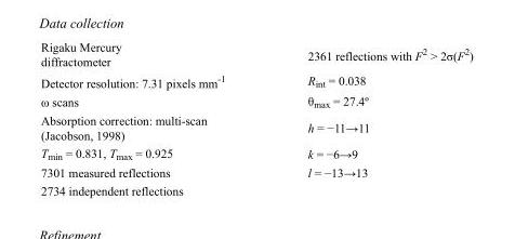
<table><tbody><tr><td>Rigaku Mercury diffractometer</td><td>2361 reflections with F<sup>2</sup> &gt; 2σ(F<sup>2</sup>)</td></tr><tr><td>Detector resolution: 7.31 pixels mm<sup>-1</sup></td><td>R<sub>int</sub> = 0.038</td></tr><tr><td>ω scans</td><td>θmax = 27.4º</td></tr><tr><td>Absorption correction: multi-scan (Jacobson, 1998)</td><td>h = −11→11</td></tr><tr><td>T<sub>min</sub> = 0.831, T<sub>max</sub> = 0.925</td><td>k = −6→9</td></tr><tr><td>7301 measured reflections</td><td>l = −13→13</td></tr><tr><td>2734 independent reflections</td><td></td></tr></tbody></table>